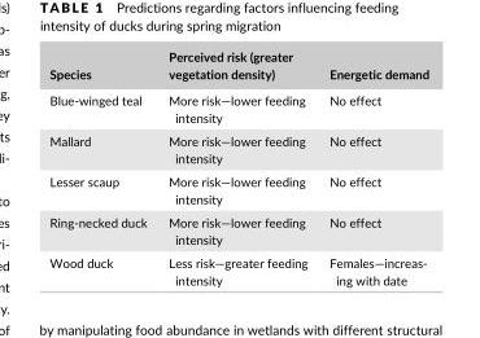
<table><thead><tr><td>Species</td><td>Perceived risk (greater vegetation density)</td><td>Energetic demand</td></tr></thead><tbody><tr><td>Blue- winged teal</td><td>More risk—lower feeding intensity</td><td>No effect</td></tr><tr><td>Mallard</td><td>More risk—lower feeding intensity</td><td>No effect</td></tr><tr><td>Lesser scaup</td><td>More risk—lower feeding intensity</td><td>No effect</td></tr><tr><td>Ring- necked duck</td><td>More risk—lower feeding intensity</td><td>No effect</td></tr><tr><td>Wood duck</td><td>Less risk—greater feeding intensity</td><td>Females—increas- ing with date</td></tr></tbody></table>